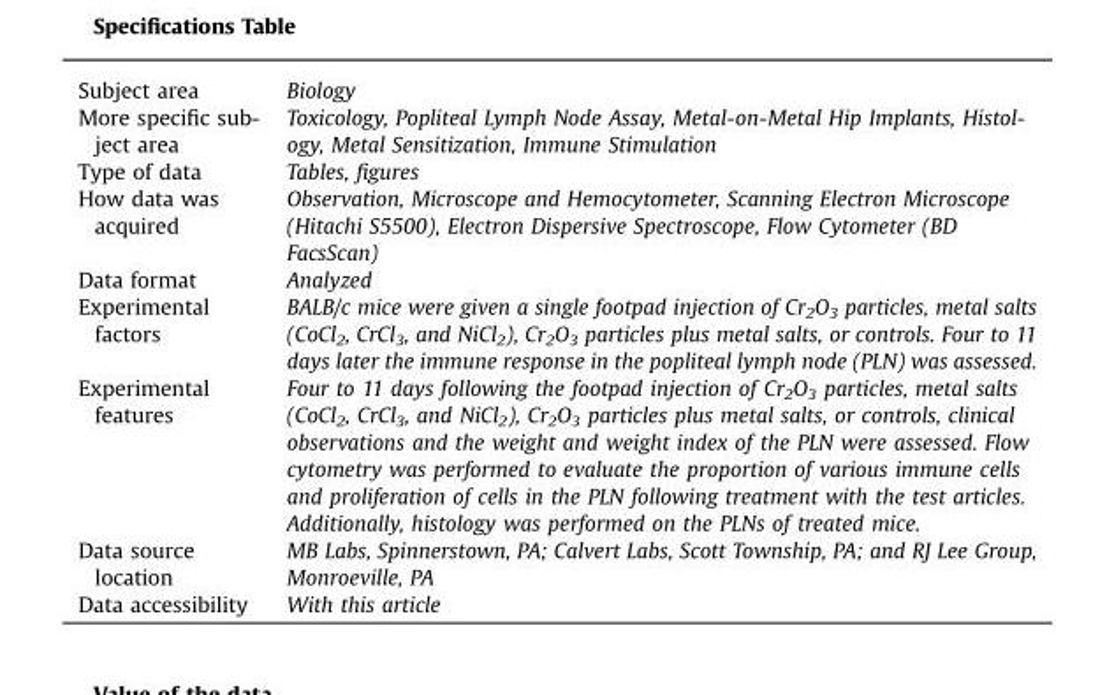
<table><tbody><tr><td>Subject area</td><td>Biology</td></tr><tr><td>More specific sub- ject area</td><td>Toxicology, Popliteal Lymph Node Assay, Metal-on-Metal Hip Implants, Histol- ogy, Metal Sensitization, Immune Stimulation</td></tr><tr><td>Type of data</td><td>Tables, figures</td></tr><tr><td>How data was acquired</td><td>Observation, Microscope and Hemocytometer, Scanning Electron Microscope (Hitachi S5500), Electron Dispersive Spectroscope, Flow Cytometer (BD FacsScan)</td></tr><tr><td>Data format</td><td>Analyzed</td></tr><tr><td>Experimental factors</td><td>BALB/c mice were given a single footpad injection of Cr<sub>2</sub>O<sub>3</sub> particles, metal salts (CoCl<sub>2</sub>, CrCl<sub>3</sub>, and NiCl<sub>2</sub>), Cr<sub>2</sub>O<sub>3</sub> particles plus metal salts, or controls. Four to 11 days later the immune response in the popliteal lymph node (PLN) was assessed.</td></tr><tr><td>Experimental features</td><td>Four to 11 days following the footpad injection of Cr<sub>2</sub>O<sub>3</sub> particles, metal salts (CoCl<sub>2</sub>, CrCl<sub>3</sub>, and NiCl<sub>2</sub>), Cr<sub>2</sub>O<sub>3</sub> particles plus metal salts, or controls, clinical observations and the weight and weight index of the PLN were assessed. Flow cytometry was performed to evaluate the proportion of various immune cells and proliferation of cells in the PLN following treatment with the test articles. Additionally, histology was performed on the PLNs of treated mice.</td></tr><tr><td>Data source location</td><td>MB Labs, Spinnerstown, PA; Calvert Labs, Scott Township, PA; and RJ Lee Group, Monroeville, PA</td></tr><tr><td>Data accessibility</td><td>With this article</td></tr></tbody></table>